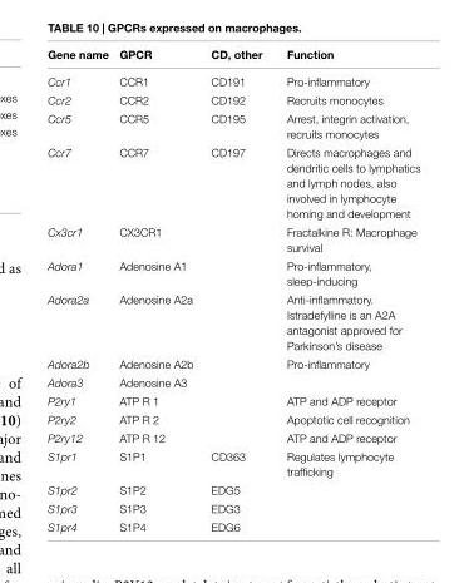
<table><thead><tr><td>Gene name</td><td>GPCR</td><td>CD, other</td><td>Function</td></tr></thead><tbody><tr><td>Ccr1</td><td>CCR1</td><td>CD191</td><td>Pro-inflammatory</td></tr><tr><td>Ccr2</td><td>CCR2</td><td>CD192</td><td>Recruits monocytes</td></tr><tr><td>Ccr5</td><td>CCR5</td><td>CD195</td><td>Arrest, integrin activation, recruits monocytes</td></tr><tr><td>Ccr7</td><td>CCR7</td><td>CD197</td><td>Directs macrophages and dendritic cells to lymphatics and lymph nodes, also involved in lymphocyte homing and development</td></tr><tr><td>Cx3cr1</td><td>CX3CR1</td><td></td><td>Fractalkine R: Macrophage survival</td></tr><tr><td>Adora1</td><td>Adenosine A1</td><td></td><td>Pro-inflammatory, sleep-inducing</td></tr><tr><td>Adora2a</td><td>Adenosine A2a</td><td></td><td>Anti-inflammatory. Istradefylline is an A2A antagonist approved for Parkinson’s disease</td></tr><tr><td>Adora2b</td><td>Adenosine A2b</td><td></td><td>Pro-inflammatory</td></tr><tr><td>Adora3</td><td>Adenosine A3</td><td></td><td></td></tr><tr><td>P2ry1</td><td>ATP R 1</td><td></td><td>ATP and ADP receptor</td></tr><tr><td>P2ry2</td><td>ATP R 2</td><td></td><td>Apoptotic cell recognition</td></tr><tr><td>P2ry12</td><td>ATP R 12</td><td></td><td>ATP and ADP receptor</td></tr><tr><td>S1pr1</td><td>S1P1</td><td>CD363</td><td>Regulates lymphocyte trafficking</td></tr><tr><td>S1pr2</td><td>S1P2</td><td>EDG5</td><td></td></tr><tr><td>S1pr3</td><td>S1P3</td><td>EDG3</td><td></td></tr><tr><td>S1pr4</td><td>S1P4</td><td>EDG6</td><td></td></tr></tbody></table>